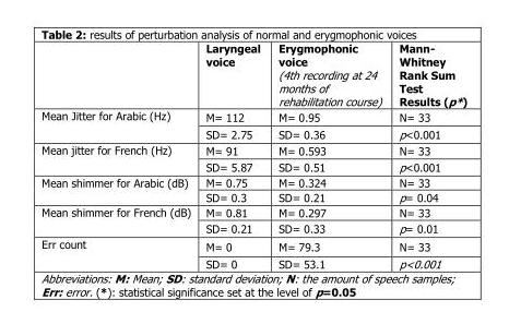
<table><thead><tr><td></td><td>Laryngeal voice</td><td>Erygmophonic voice (4th recording at 24 months of rehabilitation course)</td><td>Mann- Whitney Rank Sum Test Results (p*)</td></tr></thead><tbody><tr><td rowspan="2">Mean Jitter for Arabic (Hz)</td><td>M= 112</td><td>M= 0.95</td><td>N= 33</td></tr><tr><td>SD= 2.75</td><td>SD= 0.36</td><td>p&lt;0.001</td></tr><tr><td rowspan="2">Mean jitter for French (Hz)</td><td>M= 91</td><td>M= 0.593</td><td>N= 33</td></tr><tr><td>SD= 5.87</td><td>SD= 0.51</td><td>p&lt;0.001</td></tr><tr><td rowspan="2">Mean shimmer for Arabic (dB)</td><td>M= 0.75</td><td>M= 0.324</td><td>N= 33</td></tr><tr><td>SD= 0.3</td><td>SD= 0.21</td><td>p= 0.04</td></tr><tr><td rowspan="2">Mean shimmer for French (dB)</td><td>M= 0.81</td><td>M= 0.297</td><td>N= 33</td></tr><tr><td>SD= 0.21</td><td>SD= 0.33</td><td>p= 0.01</td></tr><tr><td rowspan="2">Err count</td><td>M= 0</td><td>M= 79.3</td><td>N= 33</td></tr><tr><td>SD= 0</td><td>SD= 53.1</td><td>p&lt;0.001</td></tr></tbody></table>